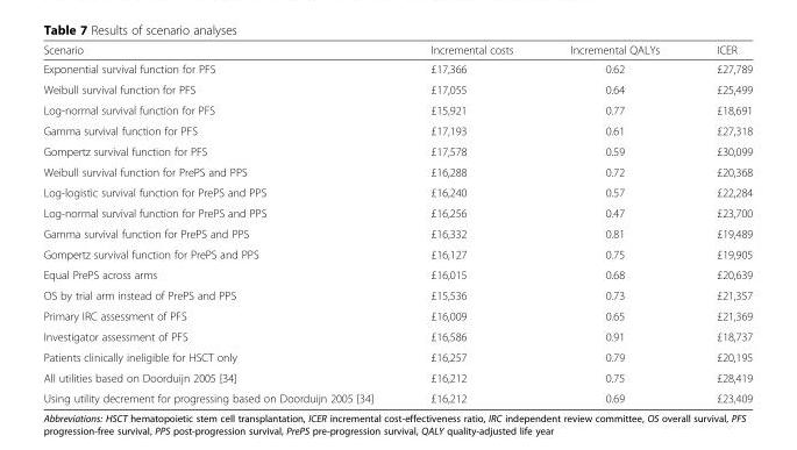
<table><thead><tr><td>Scenario</td><td>Incremental costs</td><td>Incremental QALYs</td><td>ICER</td></tr></thead><tbody><tr><td>Exponential survival function for PFS</td><td>£17,366</td><td>0.62</td><td>£27,789</td></tr><tr><td>Weibull survival function for PFS</td><td>£17,055</td><td>0.64</td><td>£25,499</td></tr><tr><td>Log-normal survival function for PFS</td><td>£15,921</td><td>0.77</td><td>£18,691</td></tr><tr><td>Gamma survival function for PFS</td><td>£17,193</td><td>0.61</td><td>£27,318</td></tr><tr><td>Gompertz survival function for PFS</td><td>£17,578</td><td>0.59</td><td>£30,099</td></tr><tr><td>Weibull survival function for PrePS and PPS</td><td>£16,288</td><td>0.72</td><td>£20,368</td></tr><tr><td>Log-logistic survival function for PrePS and PPS</td><td>£16,240</td><td>0.57</td><td>£22,284</td></tr><tr><td>Log-normal survival function for PrePS and PPS</td><td>£16,256</td><td>0.47</td><td>£23,700</td></tr><tr><td>Gamma survival function for PrePS and PPS</td><td>£16,332</td><td>0.81</td><td>£19,489</td></tr><tr><td>Gompertz survival function for PrePS and PPS</td><td>£16,127</td><td>0.75</td><td>£19,905</td></tr><tr><td>Equal PrePS across arms</td><td>£16,015</td><td>0.68</td><td>£20,639</td></tr><tr><td>OS by trial arm instead of PrePS and PPS</td><td>£15,536</td><td>0.73</td><td>£21,357</td></tr><tr><td>Primary IRC assessment of PFS</td><td>£16,009</td><td>0.65</td><td>£21,369</td></tr><tr><td>Investigator assessment of PFS</td><td>£16,586</td><td>0.91</td><td>£18,737</td></tr><tr><td>Patients clinically ineligible for HSCT only</td><td>£16,257</td><td>0.79</td><td>£20,195</td></tr><tr><td>All utilities based on Doorduijn 2005 [34]</td><td>£16,212</td><td>0.75</td><td>£28,419</td></tr><tr><td>Using utility decrement for progressing based on Doorduijn 2005 [34]</td><td>£16,212</td><td>0.69</td><td>£23,409</td></tr></tbody></table>